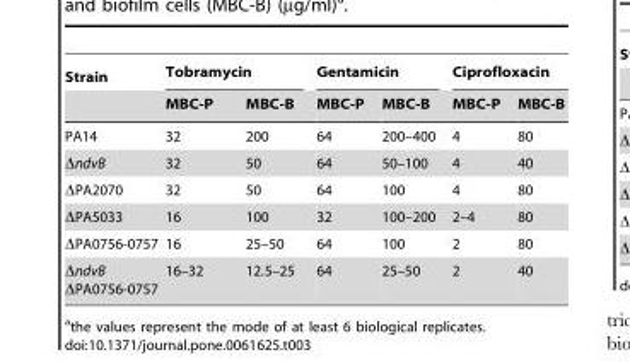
<table><thead><tr><td rowspan="2">Strain</td><td colspan="2">Tobramycin</td><td colspan="2">Gentamicin</td><td colspan="2">Ciprofloxacin</td></tr><tr><td>MBC-P</td><td>MBC-B</td><td>MBC-P</td><td>MBC-B</td><td>MBC-P</td><td>MBC-B</td></tr></thead><tbody><tr><td>PA14</td><td>32</td><td>200</td><td>64</td><td>200–400</td><td>4</td><td>80</td></tr><tr><td>ΔndvB</td><td>32</td><td>50</td><td>64</td><td>50–100</td><td>4</td><td>40</td></tr><tr><td>ΔPA2070</td><td>32</td><td>50</td><td>64</td><td>100</td><td>4</td><td>80</td></tr><tr><td>ΔPA5033</td><td>16</td><td>100</td><td>32</td><td>100–200</td><td>2–4</td><td>80</td></tr><tr><td>ΔPA0756-0757</td><td>16</td><td>25–50</td><td>64</td><td>100</td><td>2</td><td>80</td></tr><tr><td>ΔndvB ΔPA0756-0757</td><td>16–32</td><td>12.5–25</td><td>64</td><td>25–50</td><td>2</td><td>40</td></tr></tbody></table>